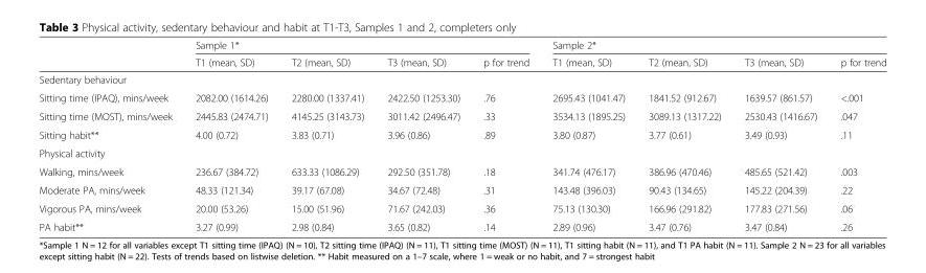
<table><thead><tr><td rowspan="2"></td><td colspan="4">Sample 1*</td><td colspan="4">Sample 2*</td></tr><tr><td>T1 (mean, SD)</td><td>T2 (mean, SD)</td><td>T3 (mean, SD)</td><td>p for trend</td><td>T1 (mean, SD)</td><td>T2 (mean, SD)</td><td>T3 (mean, SD)</td><td>p for trend</td></tr></thead><tbody><tr><td colspan="9">Sedentary behaviour</td></tr><tr><td>Sitting time (IPAQ), mins/week</td><td>2082.00 (1614.26)</td><td>2280.00 (1337.41)</td><td>2422.50 (1253.30)</td><td>.76</td><td>2695.43 (1041.47)</td><td>1841.52 (912.67)</td><td>1639.57 (861.57)</td><td>&lt;.001</td></tr><tr><td>Sitting time (MOST), mins/week</td><td>2445.83 (2474.71)</td><td>4145.25 (3143.73)</td><td>3011.42 (2496.47)</td><td>.33</td><td>3534.13 (1895.25)</td><td>3089.13 (1317.22)</td><td>2530.43 (1416.67)</td><td>.047</td></tr><tr><td>Sitting habit**</td><td>4.00 (0.72)</td><td>3.83 (0.71)</td><td>3.96 (0.86)</td><td>.89</td><td>3.80 (0.87)</td><td>3.77 (0.61)</td><td>3.49 (0.93)</td><td>.11</td></tr><tr><td colspan="9">Physical activity</td></tr><tr><td>Walking, mins/week</td><td>236.67 (384.72)</td><td>633.33 (1086.29)</td><td>292.50 (351.78)</td><td>.18</td><td>341.74 (476.17)</td><td>386.96 (470.46)</td><td>485.65 (521.42)</td><td>.003</td></tr><tr><td>Moderate PA, mins/week</td><td>48.33 (121.34)</td><td>39.17 (67.08)</td><td>34.67 (72.48)</td><td>.31</td><td>143.48 (396.03)</td><td>90.43 (134.65)</td><td>145.22 (204.39)</td><td>.22</td></tr><tr><td>Vigorous PA, mins/week</td><td>20.00 (53.26)</td><td>15.00 (51.96)</td><td>71.67 (242.03)</td><td>.36</td><td>75.13 (130.30)</td><td>166.96 (291.82)</td><td>177.83 (271.56)</td><td>.06</td></tr><tr><td>PA habit**</td><td>3.27 (0.99)</td><td>2.98 (0.84)</td><td>3.65 (0.82)</td><td>.14</td><td>2.89 (0.96)</td><td>3.47 (0.76)</td><td>3.47 (0.84)</td><td>.26</td></tr></tbody></table>